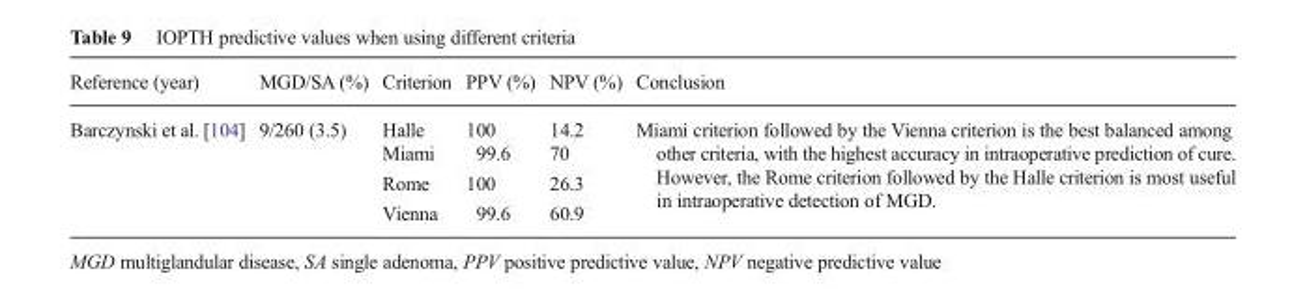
<table><thead><tr><td>Reference (year)</td><td>MGD/SA (%)</td><td>Criterion</td><td>PPV (%)</td><td>NPV (%)</td><td>Conclusion</td></tr></thead><tbody><tr><td rowspan="4">Barczynski et al. [104]</td><td rowspan="4">9/260 (3.5)</td><td>Halle</td><td>100</td><td>14.2</td><td rowspan="4">Miami criterion followed by the Vienna criterion is the best balanced among other criteria, with the highest accuracy in intraoperative prediction of cure. However, the Rome criterion followed by the Halle criterion is most useful in intraoperative detection of MGD.</td></tr><tr><td>Miami</td><td>99.6</td><td>70</td></tr><tr><td>Rome</td><td>100</td><td>26.3</td></tr><tr><td>Vienna</td><td>99.6</td><td>60.9</td></tr></tbody></table>